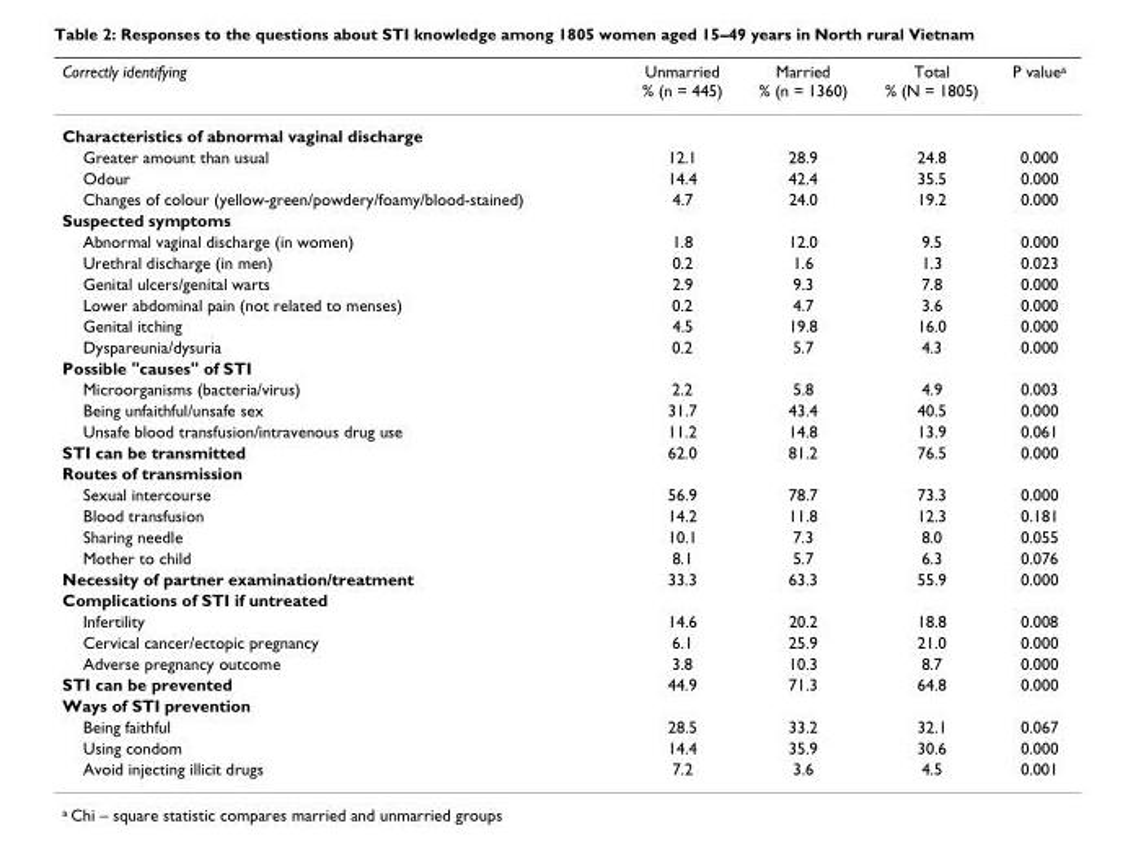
<table><thead><tr><td>Correctly identifying</td><td>Unmarried % (n = 445)</td><td>Married % (n = 1360)</td><td>Total % (N = 1805)</td><td>P value<sup>a</sup></td></tr></thead><tbody><tr><td colspan="5">Characteristics of abnormal vaginal discharge</td></tr><tr><td>Greater amount than usual</td><td>12.1</td><td>28.9</td><td>24.8</td><td>0.000</td></tr><tr><td>Odour</td><td>14.4</td><td>42.4</td><td>35.5</td><td>0.000</td></tr><tr><td>Changes of colour (yellow-green/powdery/foamy/blood-stained)</td><td>4.7</td><td>24.0</td><td>19.2</td><td>0.000</td></tr><tr><td colspan="5">Suspected symptoms</td></tr><tr><td>Abnormal vaginal discharge (in women)</td><td>1.8</td><td>12.0</td><td>9.5</td><td>0.000</td></tr><tr><td>Urethral discharge (in men)</td><td>0.2</td><td>1.6</td><td>1.3</td><td>0.023</td></tr><tr><td>Genital ulcers/genital warts</td><td>2.9</td><td>9.3</td><td>7.8</td><td>0.000</td></tr><tr><td>Lower abdominal pain (not related to menses)</td><td>0.2</td><td>4.7</td><td>3.6</td><td>0.000</td></tr><tr><td>Genital itching</td><td>4.5</td><td>19.8</td><td>16.0</td><td>0.000</td></tr><tr><td>Dyspareunia/dysuria</td><td>0.2</td><td>5.7</td><td>4.3</td><td>0.000</td></tr><tr><td colspan="5">Possible &quot;causes&quot; of STI</td></tr><tr><td>Microorganisms (bacteria/virus)</td><td>2.2</td><td>5.8</td><td>4.9</td><td>0.003</td></tr><tr><td>Being unfaithful/unsafe sex</td><td>31.7</td><td>43.4</td><td>40.5</td><td>0.000</td></tr><tr><td>Unsafe blood transfusion/intravenous drug use</td><td>11.2</td><td>14.8</td><td>13.9</td><td>0.061</td></tr><tr><td>STI can be transmitted</td><td>62.0</td><td>81.2</td><td>76.5</td><td>0.000</td></tr><tr><td colspan="5">Routes of transmission</td></tr><tr><td>Sexual intercourse</td><td>56.9</td><td>78.7</td><td>73.3</td><td>0.000</td></tr><tr><td>Blood transfusion</td><td>14.2</td><td>11.8</td><td>12.3</td><td>0.181</td></tr><tr><td>Sharing needle</td><td>10.1</td><td>7.3</td><td>8.0</td><td>0.055</td></tr><tr><td>Mother to child</td><td>8.1</td><td>5.7</td><td>6.3</td><td>0.076</td></tr><tr><td>Necessity of partner examination/treatment</td><td>33.3</td><td>63.3</td><td>55.9</td><td>0.000</td></tr><tr><td colspan="5">Complications of STI if untreated</td></tr><tr><td>Infertility</td><td>14.6</td><td>20.2</td><td>18.8</td><td>0.008</td></tr><tr><td>Cervical cancer/ectopic pregnancy</td><td>6.1</td><td>25.9</td><td>21.0</td><td>0.000</td></tr><tr><td>Adverse pregnancy outcome</td><td>3.8</td><td>10.3</td><td>8.7</td><td>0.000</td></tr><tr><td>STI can be prevented</td><td>44.9</td><td>71.3</td><td>64.8</td><td>0.000</td></tr><tr><td colspan="5">Ways of STI prevention</td></tr><tr><td>Being faithful</td><td>28.5</td><td>33.2</td><td>32.1</td><td>0.067</td></tr><tr><td>Using condom</td><td>14.4</td><td>35.9</td><td>30.6</td><td>0.000</td></tr><tr><td>Avoid injecting illicit drugs</td><td>7.2</td><td>3.6</td><td>4.5</td><td>0.001</td></tr></tbody></table>